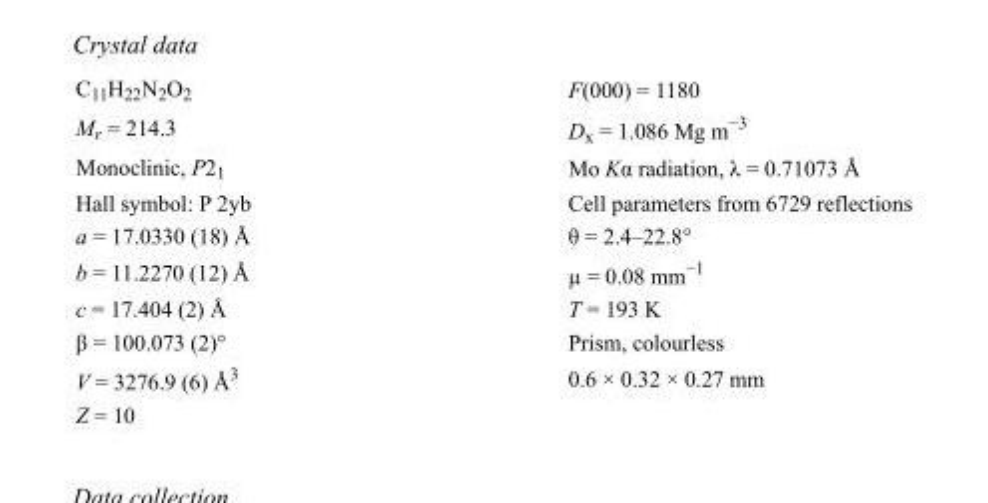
<table><tbody><tr><td>C<sub>11</sub>H<sub>22</sub>N<sub>2</sub>O<sub>2</sub></td><td>F(000) = 1180</td></tr><tr><td>M<sub>r</sub> = 214.3</td><td>D<sub>x</sub> = 1.086 Mg m<sup>−3</sup></td></tr><tr><td>Monoclinic, P2<sub>1</sub></td><td>Mo Kα radiation, λ = 0.71073 Å</td></tr><tr><td>Hall symbol: P 2yb</td><td>Cell parameters from 6729 reflections</td></tr><tr><td>a = 17.0330 (18) Å</td><td>θ = 2.4–22.8°</td></tr><tr><td>b = 11.2270 (12) Å</td><td>µ = 0.08 mm<sup>−1</sup></td></tr><tr><td>c = 17.404 (2) Å</td><td>T = 193 K</td></tr><tr><td>β = 100.073 (2)°</td><td>Prism, colourless</td></tr><tr><td>V = 3276.9 (6) Å<sup>3</sup></td><td>0.6 × 0.32 × 0.27 mm</td></tr><tr><td>Z = 10</td><td></td></tr></tbody></table>